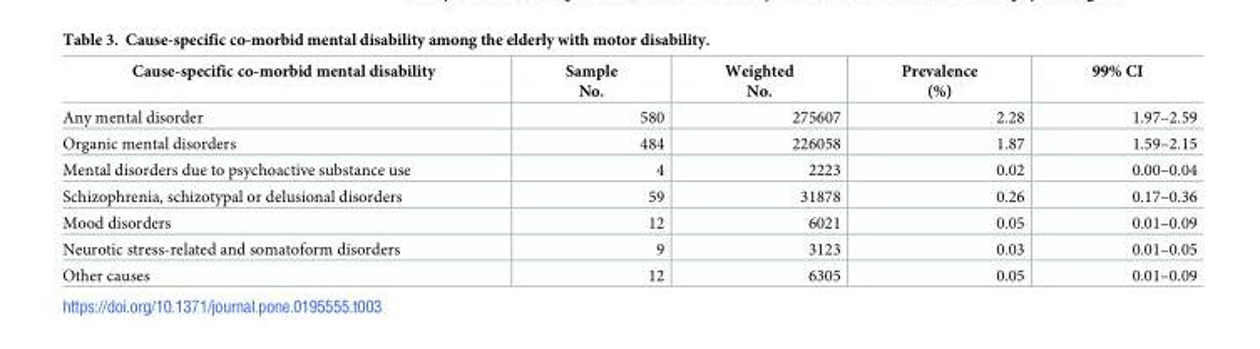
<table><thead><tr><td>Cause-specific co-morbid mental disability</td><td>Sample No.</td><td>Weighted No.</td><td>Prevalence (%)</td><td>99% CI</td></tr></thead><tbody><tr><td>Any mental disorder</td><td>580</td><td>275607</td><td>2.28</td><td>1.97–2.59</td></tr><tr><td>Organic mental disorders</td><td>484</td><td>226058</td><td>1.87</td><td>1.59–2.15</td></tr><tr><td>Mental disorders due to psychoactive substance use</td><td>4</td><td>2223</td><td>0.02</td><td>0.00–0.04</td></tr><tr><td>Schizophrenia, schizotypal or delusional disorders</td><td>59</td><td>31878</td><td>0.26</td><td>0.17–0.36</td></tr><tr><td>Mood disorders</td><td>12</td><td>6021</td><td>0.05</td><td>0.01–0.09</td></tr><tr><td>Neurotic stress-related and somatoform disorders</td><td>9</td><td>3123</td><td>0.03</td><td>0.01–0.05</td></tr><tr><td>Other causes</td><td>12</td><td>6305</td><td>0.05</td><td>0.01–0.09</td></tr></tbody></table>